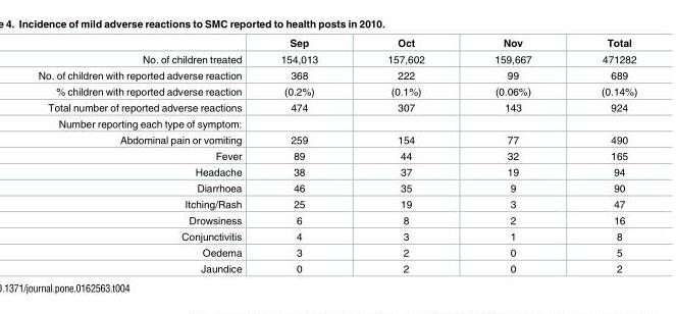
<table><thead><tr><td></td><td>Sep</td><td>Oct</td><td>Nov</td><td>Total</td></tr></thead><tbody><tr><td>No. of children treated</td><td>154,013</td><td>157,602</td><td>159,667</td><td>471282</td></tr><tr><td>No. of children with reported adverse reaction</td><td>368</td><td>222</td><td>99</td><td>689</td></tr><tr><td>% children with reported adverse reaction</td><td>(0.2%)</td><td>(0.1%)</td><td>(0.06%)</td><td>(0.14%)</td></tr><tr><td>Total number of reported adverse reactions</td><td>474</td><td>307</td><td>143</td><td>924</td></tr><tr><td colspan="5">Number reporting each type of symptom:</td></tr><tr><td>Abdominal pain or vomiting</td><td>259</td><td>154</td><td>77</td><td>490</td></tr><tr><td>Fever</td><td>89</td><td>44</td><td>32</td><td>165</td></tr><tr><td>Headache</td><td>38</td><td>37</td><td>19</td><td>94</td></tr><tr><td>Diarrhoea</td><td>46</td><td>35</td><td>9</td><td>90</td></tr><tr><td>Itching/Rash</td><td>25</td><td>19</td><td>3</td><td>47</td></tr><tr><td>Drowsiness</td><td>6</td><td>8</td><td>2</td><td>16</td></tr><tr><td>Conjunctivitis</td><td>4</td><td>3</td><td>1</td><td>8</td></tr><tr><td>Oedema</td><td>3</td><td>2</td><td>0</td><td>5</td></tr><tr><td>Jaundice</td><td>0</td><td>2</td><td>0</td><td>2</td></tr></tbody></table>